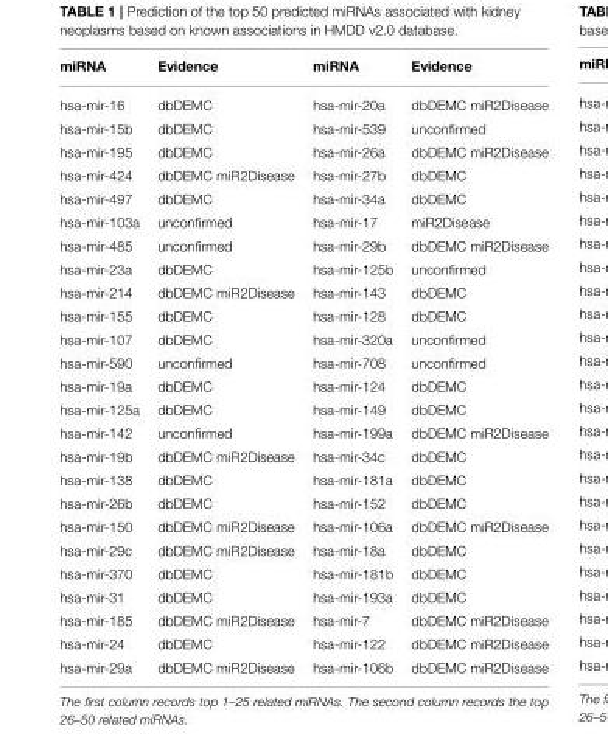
<table><thead><tr><td>miRNA</td><td>Evidence</td><td>miRNA</td><td>Evidence</td></tr></thead><tbody><tr><td>hsa-mir-16</td><td>dbDEMC</td><td>hsa-mir-20a</td><td>dbDEMC miR2Disease</td></tr><tr><td>hsa-mir-15b</td><td>dbDEMC</td><td>hsa-mir-539</td><td>unconfirmed</td></tr><tr><td>hsa-mir-195</td><td>dbDEMC</td><td>hsa-mir-26a</td><td>dbDEMC miR2Disease</td></tr><tr><td>hsa-mir-424</td><td>dbDEMC miR2Disease</td><td>hsa-mir-27b</td><td>dbDEMC</td></tr><tr><td>hsa-mir-497</td><td>dbDEMC</td><td>hsa-mir-34a</td><td>dbDEMC</td></tr><tr><td>hsa-mir-103a</td><td>unconfirmed</td><td>hsa-mir-17</td><td>miR2Disease</td></tr><tr><td>hsa-mir-485</td><td>unconfirmed</td><td>hsa-mir-29b</td><td>dbDEMC miR2Disease</td></tr><tr><td>hsa-mir-23a</td><td>dbDEMC</td><td>hsa-mir-125b</td><td>unconfirmed</td></tr><tr><td>hsa-mir-214</td><td>dbDEMC miR2Disease</td><td>hsa-mir-143</td><td>dbDEMC</td></tr><tr><td>hsa-mir-155</td><td>dbDEMC</td><td>hsa-mir-128</td><td>dbDEMC</td></tr><tr><td>hsa-mir-107</td><td>dbDEMC</td><td>hsa-mir-320a</td><td>unconfirmed</td></tr><tr><td>hsa-mir-590</td><td>unconfirmed</td><td>hsa-mir-708</td><td>unconfirmed</td></tr><tr><td>hsa-mir-19a</td><td>dbDEMC</td><td>hsa-mir-124</td><td>dbDEMC</td></tr><tr><td>hsa-mir-125a</td><td>dbDEMC</td><td>hsa-mir-149</td><td>dbDEMC</td></tr><tr><td>hsa-mir-142</td><td>unconfirmed</td><td>hsa-mir-199a</td><td>dbDEMC miR2Disease</td></tr><tr><td>hsa-mir-19b</td><td>dbDEMC miR2Disease</td><td>hsa-mir-34c</td><td>dbDEMC</td></tr><tr><td>hsa-mir-138</td><td>dbDEMC</td><td>hsa-mir-181a</td><td>dbDEMC</td></tr><tr><td>hsa-mir-26b</td><td>dbDEMC</td><td>hsa-mir-152</td><td>dbDEMC</td></tr><tr><td>hsa-mir-150</td><td>dbDEMC miR2Disease</td><td>hsa-mir-106a</td><td>dbDEMC miR2Disease</td></tr><tr><td>hsa-mir-29c</td><td>dbDEMC miR2Disease</td><td>hsa-mir-18a</td><td>dbDEMC</td></tr><tr><td>hsa-mir-370</td><td>dbDEMC</td><td>hsa-mir-181b</td><td>dbDEMC</td></tr><tr><td>hsa-mir-31</td><td>dbDEMC</td><td>hsa-mir-193a</td><td>dbDEMC</td></tr><tr><td>hsa-mir-185</td><td>dbDEMC miR2Disease</td><td>hsa-mir-7</td><td>dbDEMC miR2Disease</td></tr><tr><td>hsa-mir-24</td><td>dbDEMC</td><td>hsa-mir-122</td><td>dbDEMC miR2Disease</td></tr><tr><td>hsa-mir-29a</td><td>dbDEMC miR2Disease</td><td>hsa-mir-106b</td><td>dbDEMC miR2Disease</td></tr></tbody></table>